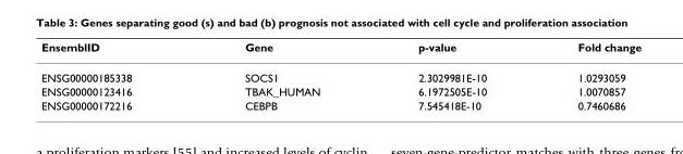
<table><thead><tr><td>EnsemblID</td><td>Gene</td><td>p-value</td><td>Fold change</td></tr></thead><tbody><tr><td>ENSG00000185338</td><td>SOCS1</td><td>2.3029981E-10</td><td>1.0293059</td></tr><tr><td>ENSG00000123416</td><td>TBAK_HUMAN</td><td>6.1972505E-10</td><td>1.0070857</td></tr><tr><td>ENSG00000172216</td><td>CEBPB</td><td>7.545418E-10</td><td>0.7460686</td></tr></tbody></table>